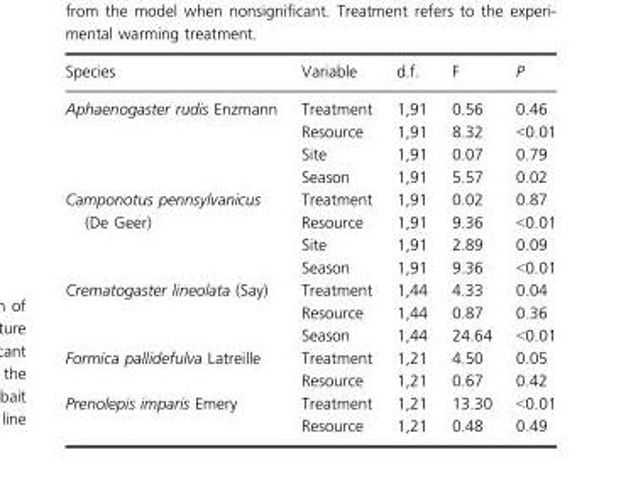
<table><thead><tr><td>Species</td><td>Variable</td><td>d.f.</td><td>F</td><td>P</td></tr></thead><tbody><tr><td rowspan="4">Aphaenogaster rudis Enzmann</td><td>Treatment</td><td>1,91</td><td>0.56</td><td>0.46</td></tr><tr><td>Resource</td><td>1,91</td><td>8.32</td><td>&lt;0.01</td></tr><tr><td>Site</td><td>1,91</td><td>0.07</td><td>0.79</td></tr><tr><td>Season</td><td>1,91</td><td>5.57</td><td>0.02</td></tr><tr><td rowspan="4">Camponotus pennsylvanicus (De Geer)</td><td>Treatment</td><td>1,91</td><td>0.02</td><td>0.87</td></tr><tr><td>Resource</td><td>1,91</td><td>9.36</td><td>&lt;0.01</td></tr><tr><td>Site</td><td>1,91</td><td>2.89</td><td>0.09</td></tr><tr><td>Season</td><td>1,91</td><td>9.36</td><td>&lt;0.01</td></tr><tr><td rowspan="3">Crematogaster lineolata (Say)</td><td>Treatment</td><td>1,44</td><td>4.33</td><td>0.04</td></tr><tr><td>Resource</td><td>1,44</td><td>0.87</td><td>0.36</td></tr><tr><td>Season</td><td>1,44</td><td>24.64</td><td>&lt;0.01</td></tr><tr><td rowspan="2">Formica pallidefulva Latreille</td><td>Treatment</td><td>1,21</td><td>4.50</td><td>0.05</td></tr><tr><td>Resource</td><td>1,21</td><td>0.67</td><td>0.42</td></tr><tr><td rowspan="2">Prenolepis imparis Emery</td><td>Treatment</td><td>1,21</td><td>13.30</td><td>&lt;0.01</td></tr><tr><td>Resource</td><td>1,21</td><td>0.48</td><td>0.49</td></tr></tbody></table>